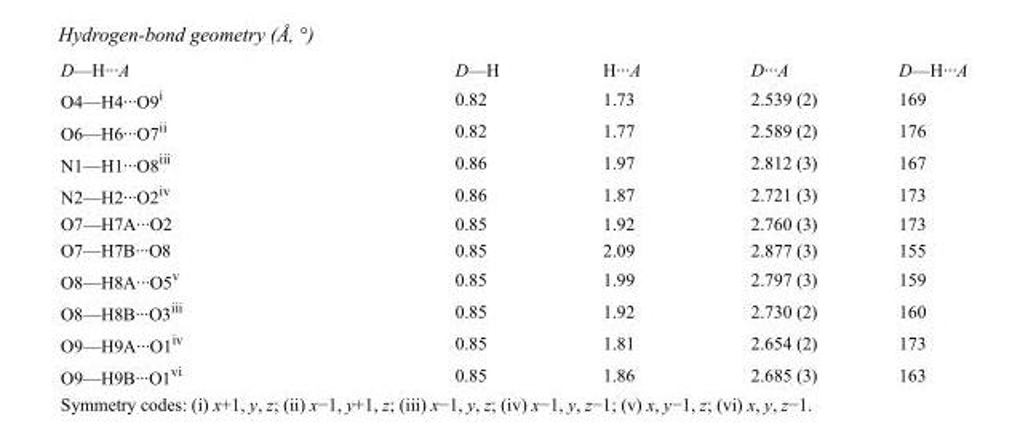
<table><tbody><tr><td>D—H···A</td><td>D—H</td><td>H···A</td><td>D···A</td><td>D—H···A</td></tr><tr><td>O4—H4···O9<sup>i</sup></td><td>0.82</td><td>1.73</td><td>2.539 (2)</td><td>169</td></tr><tr><td>O6—H6···O7<sup>ii</sup></td><td>0.82</td><td>1.77</td><td>2.589 (2)</td><td>176</td></tr><tr><td>N1—H1···O8<sup>iii</sup></td><td>0.86</td><td>1.97</td><td>2.812 (3)</td><td>167</td></tr><tr><td>N2—H2···O2<sup>iv</sup></td><td>0.86</td><td>1.87</td><td>2.721 (3)</td><td>173</td></tr><tr><td>O7—H7A···O2</td><td>0.85</td><td>1.92</td><td>2.760 (3)</td><td>173</td></tr><tr><td>O7—H7B···O8</td><td>0.85</td><td>2.09</td><td>2.877 (3)</td><td>155</td></tr><tr><td>O8—H8A···O5<sup>v</sup></td><td>0.85</td><td>1.99</td><td>2.797 (3)</td><td>159</td></tr><tr><td>O8—H8B···O3<sup>iii</sup></td><td>0.85</td><td>1.92</td><td>2.730 (2)</td><td>160</td></tr><tr><td>O9—H9A···O1<sup>iv</sup></td><td>0.85</td><td>1.81</td><td>2.654 (2)</td><td>173</td></tr><tr><td>O9—H9B···O1<sup>vi</sup></td><td>0.85</td><td>1.86</td><td>2.685 (3)</td><td>163</td></tr></tbody></table>